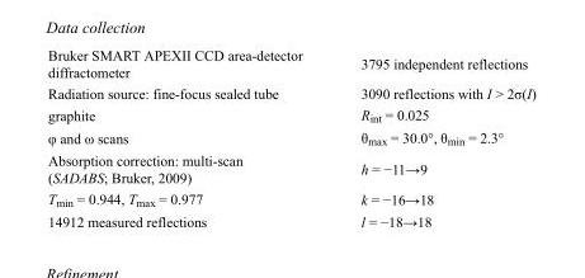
<table><tbody><tr><td>Bruker SMART APEXII CCD area-detector diffractometer</td><td>3795 independent reflections</td></tr><tr><td>Radiation source: fine-focus sealed tube</td><td>3090 reflections with I &gt; 2σ(I)</td></tr><tr><td>graphite</td><td>R<sub>int</sub> = 0.025</td></tr><tr><td>φ and ω scans</td><td>θ<sub>max</sub> = 30.0°, θ<sub>min</sub> = 2.3°</td></tr><tr><td>Absorption correction: multi-scan (SADABS; Bruker, 2009)</td><td>h = −11→9</td></tr><tr><td>T<sub>min</sub> = 0.944, T<sub>max</sub> = 0.977</td><td>k = −16→18</td></tr><tr><td>14912 measured reflections</td><td>l = −18→18</td></tr></tbody></table>